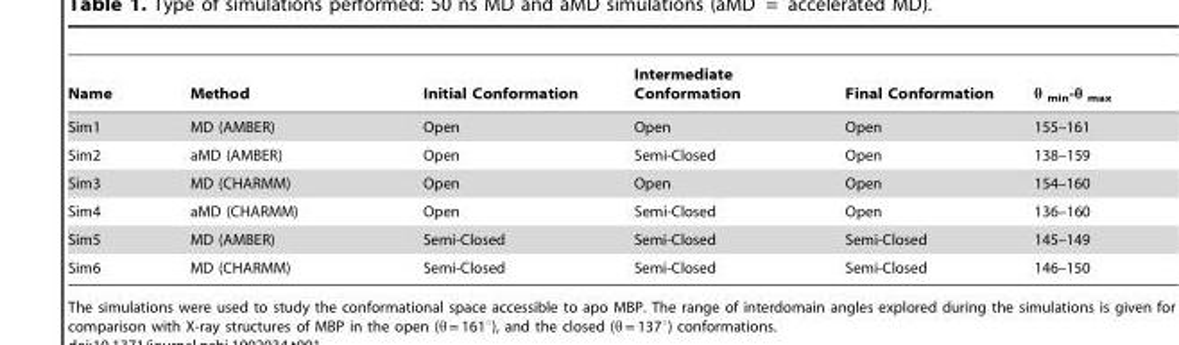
<table><thead><tr><td>Name</td><td>Method</td><td>Initial Conformation</td><td>Intermediate Conformation</td><td>Final Conformation</td><td>θ <sub>min</sub>-θ <sub>max</sub></td></tr></thead><tbody><tr><td>Sim1</td><td>MD (AMBER)</td><td>Open</td><td>Open</td><td>Open</td><td>155–161</td></tr><tr><td>Sim2</td><td>aMD (AMBER)</td><td>Open</td><td>Semi-Closed</td><td>Open</td><td>138–159</td></tr><tr><td>Sim3</td><td>MD (CHARMM)</td><td>Open</td><td>Open</td><td>Open</td><td>154–160</td></tr><tr><td>Sim4</td><td>aMD (CHARMM)</td><td>Open</td><td>Semi-Closed</td><td>Open</td><td>136–160</td></tr><tr><td>Sim5</td><td>MD (AMBER)</td><td>Semi-Closed</td><td>Semi-Closed</td><td>Semi-Closed</td><td>145–149</td></tr><tr><td>Sim6</td><td>MD (CHARMM)</td><td>Semi-Closed</td><td>Semi-Closed</td><td>Semi-Closed</td><td>146–150</td></tr></tbody></table>